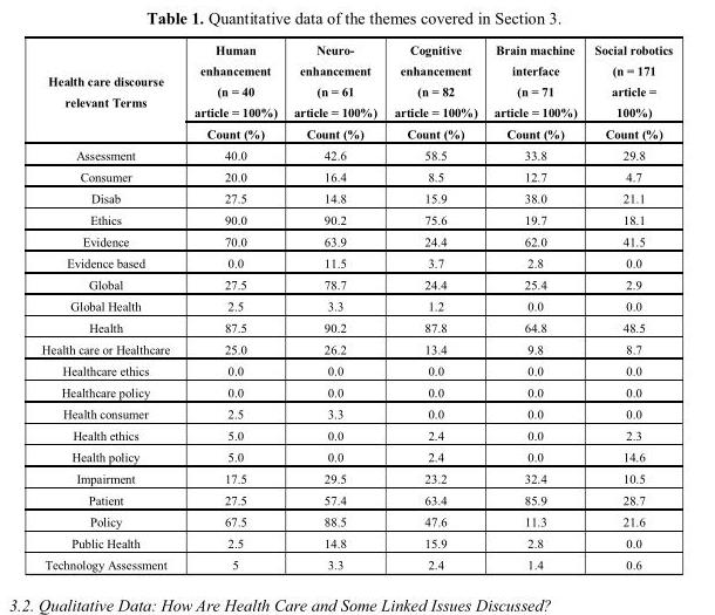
<table><thead><tr><td rowspan="2">Health care discourse relevant Terms</td><td rowspan="2">Human enhancement (n = 40 article = 100%) Count (%)</td><td rowspan="2">Neuro- enhancement (n = 61 article = 100%) Count (%)</td><td rowspan="2">Cognitive enhancement (n = 82 article = 100%) Count (%)</td><td rowspan="2">Brain machine interface (n = 71 article = 100%) Count (%)</td><td rowspan="2">Social robotics (n = 171 article = 100%) Count (%)</td></tr><tr></tr></thead><tbody><tr><td>Assessment</td><td>40.0</td><td>42.6</td><td>58.5</td><td>33.8</td><td>29.8</td></tr><tr><td>Consumer</td><td>20.0</td><td>16.4</td><td>8.5</td><td>12.7</td><td>4.7</td></tr><tr><td>Disab</td><td>27.5</td><td>14.8</td><td>15.9</td><td>38.0</td><td>21.1</td></tr><tr><td>Ethics</td><td>90.0</td><td>90.2</td><td>75.6</td><td>19.7</td><td>18.1</td></tr><tr><td>Evidence</td><td>70.0</td><td>63.9</td><td>24.4</td><td>62.0</td><td>41.5</td></tr><tr><td>Evidence based</td><td>0.0</td><td>11.5</td><td>3.7</td><td>2.8</td><td>0.0</td></tr><tr><td>Global</td><td>27.5</td><td>78.7</td><td>24.4</td><td>25.4</td><td>2.9</td></tr><tr><td>Global Health</td><td>2.5</td><td>3.3</td><td>1.2</td><td>0.0</td><td>0.0</td></tr><tr><td>Health</td><td>87.5</td><td>90.2</td><td>87.8</td><td>64.8</td><td>48.5</td></tr><tr><td>Health care or Healthcare</td><td>25.0</td><td>26.2</td><td>13.4</td><td>9.8</td><td>8.7</td></tr><tr><td>Healthcare ethics</td><td>0.0</td><td>0.0</td><td>0.0</td><td>0.0</td><td>0.0</td></tr><tr><td>Healthcare policy</td><td>0.0</td><td>0.0</td><td>0.0</td><td>0.0</td><td>0.0</td></tr><tr><td>Health consumer</td><td>2.5</td><td>3.3</td><td>0.0</td><td>0.0</td><td>0.0</td></tr><tr><td>Health ethics</td><td>5.0</td><td>0.0</td><td>2.4</td><td>0.0</td><td>2.3</td></tr><tr><td>Health policy</td><td>5.0</td><td>0.0</td><td>2.4</td><td>0.0</td><td>14.6</td></tr><tr><td>Impairment</td><td>17.5</td><td>29.5</td><td>23.2</td><td>32.4</td><td>10.5</td></tr><tr><td>Patient</td><td>27.5</td><td>57.4</td><td>63.4</td><td>85.9</td><td>28.7</td></tr><tr><td>Policy</td><td>67.5</td><td>88.5</td><td>47.6</td><td>11.3</td><td>21.6</td></tr><tr><td>Public Health</td><td>2.5</td><td>14.8</td><td>15.9</td><td>2.8</td><td>0.0</td></tr><tr><td>Technology Assessment</td><td>5</td><td>3.3</td><td>2.4</td><td>1.4</td><td>0.6</td></tr></tbody></table>